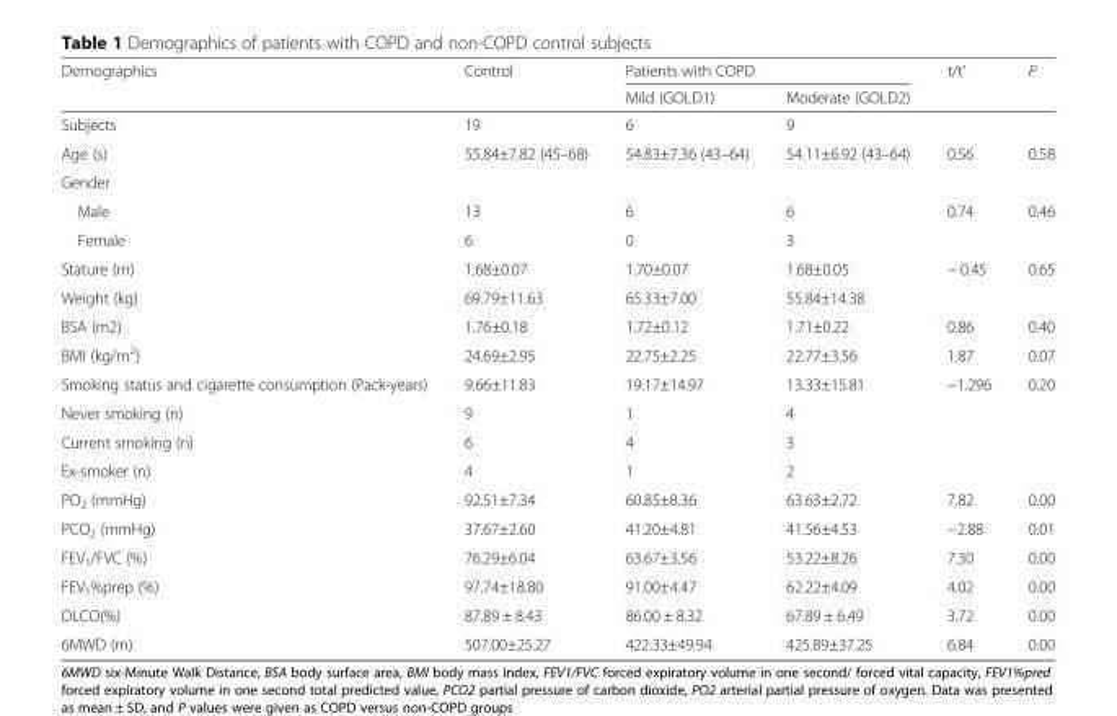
<table><thead><tr><td rowspan="2">Demographics</td><td rowspan="2">Control</td><td colspan="2">Patients with COPD</td><td rowspan="2">t/t’</td><td rowspan="2">P</td></tr><tr><td>Mild (GOLD1)</td><td>Moderate (GOLD2)</td></tr></thead><tbody><tr><td>Subjects</td><td>19</td><td>6</td><td>9</td><td></td><td></td></tr><tr><td>Age (s)</td><td>55.84±7.82 (45–68)</td><td>54.83±7.36 (43–64)</td><td>54.11±6.92 (43–64)</td><td>0.56</td><td>0.58</td></tr><tr><td colspan="6">Gender</td></tr><tr><td>Male</td><td>13</td><td>6</td><td>6</td><td>0.74</td><td>0.46</td></tr><tr><td>Female</td><td>6</td><td>0</td><td>3</td><td></td><td></td></tr><tr><td>Stature (m)</td><td>1.68±0.07</td><td>1.70±0.07</td><td>1.68±0.05</td><td>− 0.45</td><td>0.65</td></tr><tr><td>Weight (kg)</td><td>69.79±11.63</td><td>65.33±7.00</td><td>55.84±14.38</td><td></td><td></td></tr><tr><td>BSA (m2)</td><td>1.76±0.18</td><td>1.72±0.12</td><td>1.71±0.22</td><td>0.86</td><td>0.40</td></tr><tr><td>BMI (kg/m<sup>2</sup>)</td><td>24.69±2.95</td><td>22.75±2.25</td><td>22.77±3.56</td><td>1.87</td><td>0.07</td></tr><tr><td>Smoking status and cigarette consumption (Pack-years)</td><td>9.66±11.83</td><td>19.17±14.97</td><td>13.33±15.81</td><td>−1.296</td><td>0.20</td></tr><tr><td>Never smoking (n)</td><td>9</td><td>1</td><td>4</td><td></td><td></td></tr><tr><td>Current smoking (n)</td><td>6</td><td>4</td><td>3</td><td></td><td></td></tr><tr><td>Ex-smoker (n)</td><td>4</td><td>1</td><td>2</td><td></td><td></td></tr><tr><td>PO<sub>2</sub> (mmHg)</td><td>92.51±7.34</td><td>60.85±8.36</td><td>63.63±2.72</td><td>7.82</td><td>0.00</td></tr><tr><td>PCO<sub>2</sub> (mmHg)</td><td>37.67±2.60</td><td>41.20±4.81</td><td>41.56±4.53</td><td>−2.88</td><td>0.01</td></tr><tr><td>FEV<sub>1</sub>/FVC (%)</td><td>76.29±6.04</td><td>63.67±3.56</td><td>53.22±8.26</td><td>7.30</td><td>0.00</td></tr><tr><td>FEV<sub>1</sub>%prep (%)</td><td>97.74±18.80</td><td>91.00±4.47</td><td>62.22±4.09</td><td>4.02</td><td>0.00</td></tr><tr><td>DLCO(%)</td><td>87.89 ± 8.43</td><td>86.00 ± 8.32</td><td>67.89 ± 6.49</td><td>3.72</td><td>0.00</td></tr><tr><td>6MWD (m)</td><td>507.00±25.27</td><td>422.33±49.94</td><td>425.89±37.25</td><td>6.84</td><td>0.00</td></tr></tbody></table>